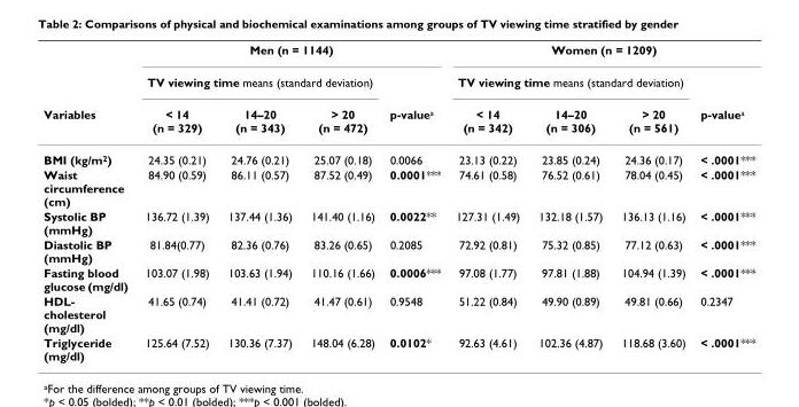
<table><thead><tr><td rowspan="3">Variables</td><td colspan="4">Men (n = 1144)</td><td colspan="4">Women (n = 1209)</td></tr><tr><td colspan="3">TV viewing time means (standard deviation)</td><td rowspan="2">p-value<sup>a</sup></td><td colspan="3">TV viewing time means (standard deviation)</td><td rowspan="2">p-value<sup>a</sup></td></tr><tr><td>&lt; 14 (n = 329)</td><td>14–20 (n = 343)</td><td>&gt; 20 (n = 472)</td><td>&lt; 14 (n = 342)</td><td>14–20 (n = 306)</td><td>&gt; 20 (n = 561)</td></tr></thead><tbody><tr><td>BMI (kg/m<sup>2</sup>)</td><td>24.35 (0.21)</td><td>24.76 (0.21)</td><td>25.07 (0.18)</td><td>0.0066</td><td>23.13 (0.22)</td><td>23.85 (0.24)</td><td>24.36 (0.17)</td><td>&lt; .0001***</td></tr><tr><td>Waist circumference (cm)</td><td>84.90 (0.59)</td><td>86.11 (0.57)</td><td>87.52 (0.49)</td><td>0.0001***</td><td>74.61 (0.58)</td><td>76.52 (0.61)</td><td>78.04 (0.45)</td><td>&lt; .0001***</td></tr><tr><td>Systolic BP (mmHg)</td><td>136.72 (1.39)</td><td>137.44 (1.36)</td><td>141.40 (1.16)</td><td>0.0022**</td><td>127.31 (1.49)</td><td>132.18 (1.57)</td><td>136.13 (1.16)</td><td>&lt; .0001***</td></tr><tr><td>Diastolic BP (mmHg)</td><td>81.84(0.77)</td><td>82.36 (0.76)</td><td>83.26 (0.65)</td><td>0.2085</td><td>72.92 (0.81)</td><td>75.32 (0.85)</td><td>77.12 (0.63)</td><td>&lt; .0001***</td></tr><tr><td>Fasting blood glucose (mg/dl)</td><td>103.07 (1.98)</td><td>103.63 (1.94)</td><td>110.16 (1.66)</td><td>0.0006***</td><td>97.08 (1.77)</td><td>97.81 (1.88)</td><td>104.94 (1.39)</td><td>&lt; .0001***</td></tr><tr><td>HDL- cholesterol (mg/dl)</td><td>41.65 (0.74)</td><td>41.41 (0.72)</td><td>41.47 (0.61)</td><td>0.9548</td><td>51.22 (0.84)</td><td>49.90 (0.89)</td><td>49.81 (0.66)</td><td>0.2347</td></tr><tr><td>Triglyceride (mg/dl)</td><td>125.64 (7.52)</td><td>130.36 (7.37)</td><td>148.04 (6.28)</td><td>0.0102*</td><td>92.63 (4.61)</td><td>102.36 (4.87)</td><td>118.68 (3.60)</td><td>&lt; .0001***</td></tr></tbody></table>